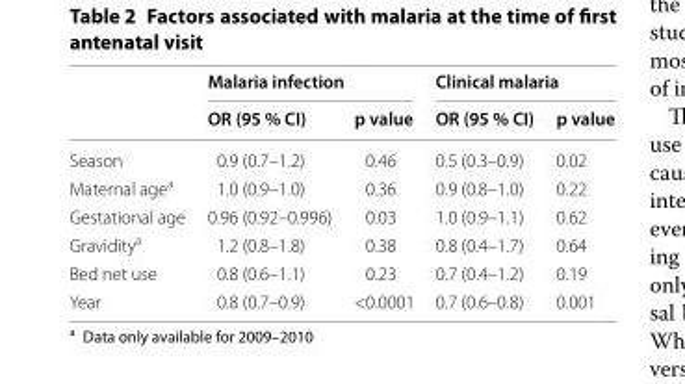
<table><thead><tr><td rowspan="2"></td><td colspan="2">Malaria infection</td><td colspan="2">Clinical malaria</td></tr><tr><td>OR (95 % CI)</td><td>p value</td><td>OR (95 % CI)</td><td>p value</td></tr></thead><tbody><tr><td>Season</td><td>0.9 (0.7–1.2)</td><td>0.46</td><td>0.5 (0.3–0.9)</td><td>0.02</td></tr><tr><td>Maternal age<sup>a</sup></td><td>1.0 (0.9–1.0)</td><td>0.36</td><td>0.9 (0.8–1.0)</td><td>0.22</td></tr><tr><td>Gestational age</td><td>0.96 (0.92–0.996)</td><td>0.03</td><td>1.0 (0.9–1.1)</td><td>0.62</td></tr><tr><td>Gravidity<sup>a</sup></td><td>1.2 (0.8–1.8)</td><td>0.38</td><td>0.8 (0.4–1.7)</td><td>0.64</td></tr><tr><td>Bed net use</td><td>0.8 (0.6–1.1)</td><td>0.23</td><td>0.7 (0.4–1.2)</td><td>0.19</td></tr><tr><td>Year</td><td>0.8 (0.7–0.9)</td><td>&lt;0.0001</td><td>0.7 (0.6–0.8)</td><td>0.001</td></tr></tbody></table>